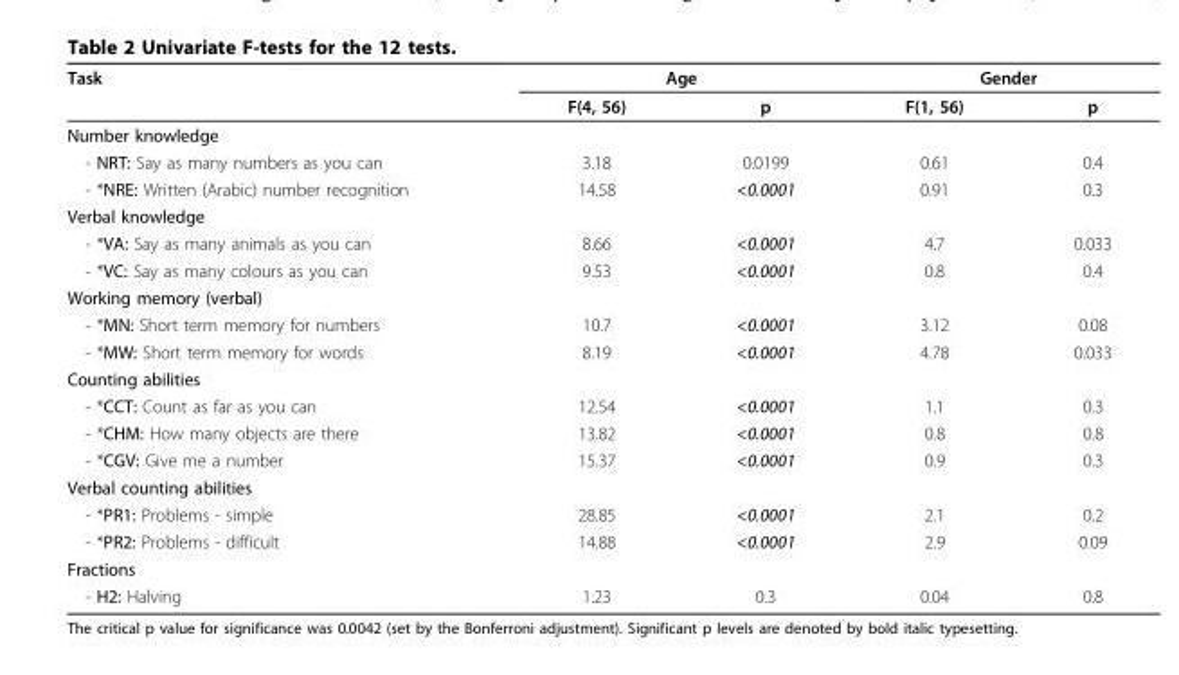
<table><thead><tr><td rowspan="2">Task</td><td colspan="2">Age</td><td colspan="2">Gender</td></tr><tr><td>F(4, 56)</td><td>p</td><td>F(1, 56)</td><td>p</td></tr></thead><tbody><tr><td colspan="5">Number knowledge</td></tr><tr><td>- NRT: Say as many numbers as you can</td><td>3.18</td><td>0.0199</td><td>0.61</td><td>0.4</td></tr><tr><td>- *NRE: Written (Arabic) number recognition</td><td>14.58</td><td>&lt;0.0001</td><td>0.91</td><td>0.3</td></tr><tr><td colspan="5">Verbal knowledge</td></tr><tr><td>- *VA: Say as many animals as you can</td><td>8.66</td><td>&lt;0.0001</td><td>4.7</td><td>0.033</td></tr><tr><td>- *VC: Say as many colours as you can</td><td>9.53</td><td>&lt;0.0001</td><td>0.8</td><td>0.4</td></tr><tr><td colspan="5">Working memory (verbal)</td></tr><tr><td>- *MN: Short term memory for numbers</td><td>10.7</td><td>&lt;0.0001</td><td>3.12</td><td>0.08</td></tr><tr><td>- *MW: Short term memory for words</td><td>8.19</td><td>&lt;0.0001</td><td>4.78</td><td>0.033</td></tr><tr><td colspan="5">Counting abilities</td></tr><tr><td>- *CCT: Count as far as you can</td><td>12.54</td><td>&lt;0.0001</td><td>1.1</td><td>0.3</td></tr><tr><td>- *CHM: How many objects are there</td><td>13.82</td><td>&lt;0.0001</td><td>0.8</td><td>0.8</td></tr><tr><td>- *CGV: Give me a number</td><td>15.37</td><td>&lt;0.0001</td><td>0.9</td><td>0.3</td></tr><tr><td colspan="5">Verbal counting abilities</td></tr><tr><td>- *PR1: Problems - simple</td><td>28.85</td><td>&lt;0.0001</td><td>2.1</td><td>0.2</td></tr><tr><td>- *PR2: Problems - difficult</td><td>14.88</td><td>&lt;0.0001</td><td>2.9</td><td>0.09</td></tr><tr><td colspan="5">Fractions</td></tr><tr><td>- H2: Halving</td><td>1.23</td><td>0.3</td><td>0.04</td><td>0.8</td></tr></tbody></table>